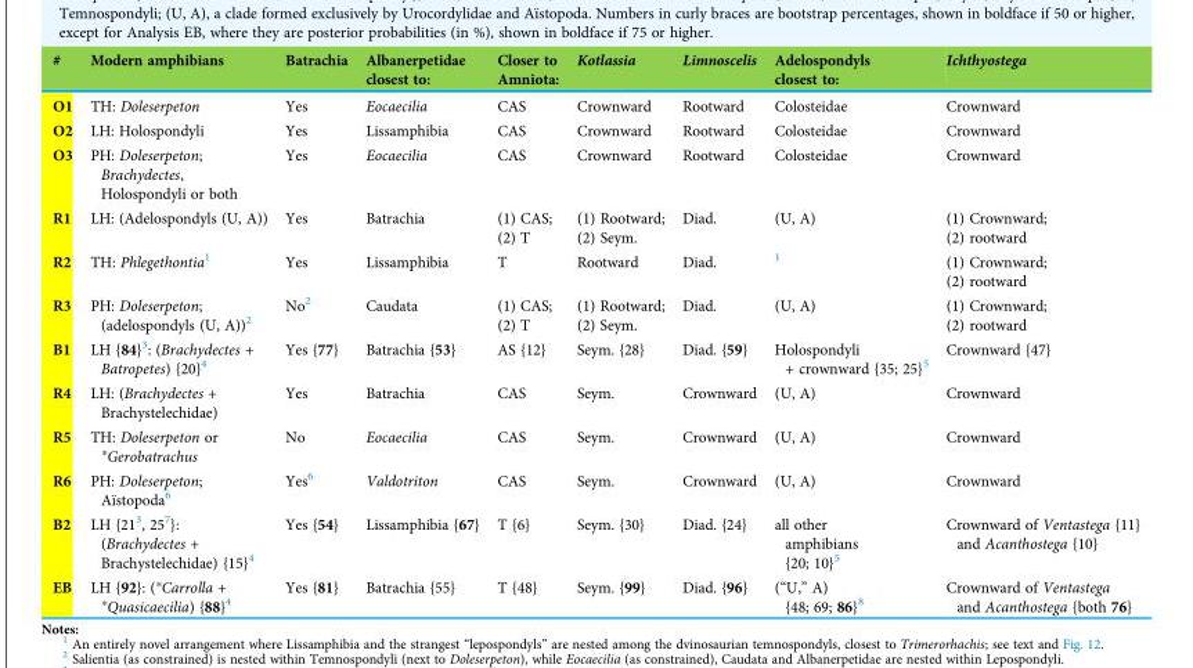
<table><thead><tr><td>#</td><td>Modern amphibians</td><td>Batrachia</td><td>Albanerpetidae closest to:</td><td>Closer to Amniota:</td><td>Kotlassia</td><td>Limnoscelis</td><td>Adelospondyls closest to:</td><td>Ichthyostega</td></tr></thead><tbody><tr><td>O1</td><td>TH: Doleserpeton</td><td>Yes</td><td>Eocaecilia</td><td>CAS</td><td>Crownward</td><td>Rootward</td><td>Colosteidae</td><td>Crownward</td></tr><tr><td>O2</td><td>LH: Holospondyli</td><td>Yes</td><td>Lissamphibia</td><td>CAS</td><td>Crownward</td><td>Rootward</td><td>Colosteidae</td><td>Crownward</td></tr><tr><td>O3</td><td>PH: Doleserpeton; Brachydectes, Holospondyli or both</td><td>Yes</td><td>Eocaecilia</td><td>CAS</td><td>Crownward</td><td>Rootward</td><td>Colosteidae</td><td>Crownward</td></tr><tr><td>R1</td><td>LH: (Adelospondyls (U, A))</td><td>Yes</td><td>Batrachia</td><td>(1) CAS; (2) T</td><td>(1) Rootward; (2) Seym.</td><td>Diad.</td><td>(U, A)</td><td>(1) Crownward; (2) rootward</td></tr><tr><td>R2</td><td>TH: Phlegethontia<sup>1</sup></td><td>Yes</td><td>Lissamphibia</td><td>T</td><td>Rootward</td><td>Diad.</td><td><sup>1</sup></td><td>(1) Crownward; (2) rootward</td></tr><tr><td>R3</td><td>PH: Doleserpeton; (adelospondyls (U, A))<sup>2</sup></td><td>No<sup>2</sup></td><td>Caudata</td><td>(1) CAS; (2) T</td><td>(1) Rootward; (2) Seym.</td><td>Diad.</td><td>(U, A)</td><td>(1) Crownward; (2) rootward</td></tr><tr><td>B1</td><td>LH {84}<sup>3</sup>: (Brachydectes + Batropetes) {20}<sup>4</sup></td><td>Yes {77}</td><td>Batrachia {53}</td><td>AS {12}</td><td>Seym. {28}</td><td>Diad. {59}</td><td>Holospondyli + crownward {35; 25}<sup>5</sup></td><td>Crownward {47}</td></tr><tr><td>R4</td><td>LH: (Brachydectes + Brachystelechidae)</td><td>Yes</td><td>Batrachia</td><td>CAS</td><td>Seym.</td><td>Crownward</td><td>(U, A)</td><td>Crownward</td></tr><tr><td>R5</td><td>TH: Doleserpeton or *Gerobatrachus</td><td>No</td><td>Eocaecilia</td><td>CAS</td><td>Seym.</td><td>Crownward</td><td>(U, A)</td><td>Crownward</td></tr><tr><td>R6</td><td>PH: Doleserpeton; Aïstopoda<sup>6</sup></td><td>Yes<sup>6</sup></td><td>Valdotriton</td><td>CAS</td><td>Seym.</td><td>Crownward</td><td>(U, A)</td><td>Crownward</td></tr><tr><td>B2</td><td>LH {21<sup>3</sup>, 25<sup>7</sup>}: (Brachydectes + Brachystelechidae) {15}<sup>4</sup></td><td>Yes {54}</td><td>Lissamphibia {67}</td><td>T {6}</td><td>Seym. {30}</td><td>Diad. {24}</td><td>all other amphibians {20; 10}<sup>5</sup></td><td>Crownward of Ventastega {11} and Acanthostega {10}</td></tr><tr><td>EB</td><td>LH {92}: (*Carrolla + *Quasicaecilia) {88}<sup>4</sup></td><td>Yes {81}</td><td>Batrachia {55}</td><td>T {48}</td><td>Seym. {99}</td><td>Diad. {96}</td><td>(“U,” A) {48; 69; 86}<sup>8</sup></td><td>Crownward of Ventastega and Acanthostega {both 76}</td></tr></tbody></table>